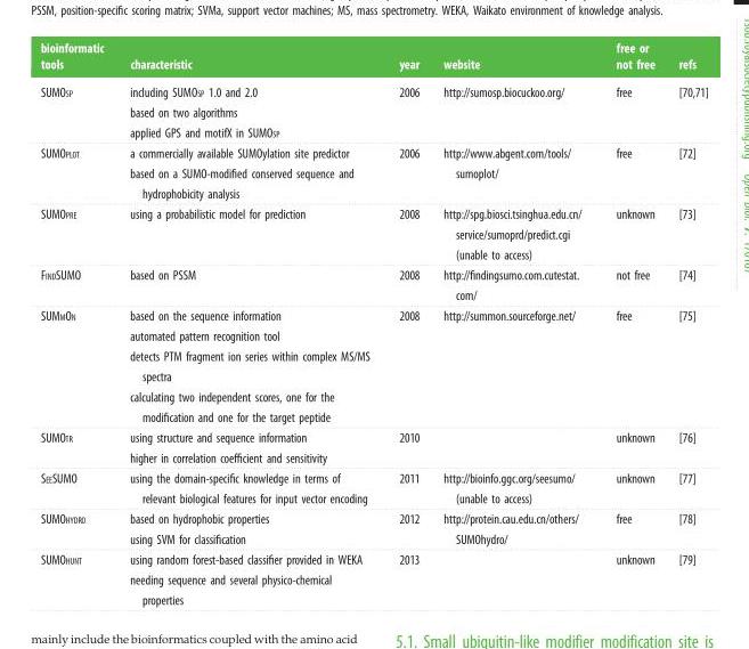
<table><thead><tr><td>bioinformatic tools</td><td>characteristic</td><td>year</td><td>website</td><td>free or not free</td><td>refs</td></tr></thead><tbody><tr><td>SUMOSP</td><td>including SUMOSP 1.0 and 2.0 based on two algorithms applied GPS and motifX in SUMOSP</td><td>2006</td><td>http://sumosp.biocuckoo.org/</td><td>free</td><td>[70,71]</td></tr><tr><td>SUMOPLOT</td><td>a commercially available SUMOylation site predictor based on a SUMO-modified conserved sequence and hydrophobicity analysis</td><td>2006</td><td>http://www.abgent.com/tools/ sumoplot/</td><td>free</td><td>[72]</td></tr><tr><td>SUMOPRE</td><td>using a probabilistic model for prediction</td><td>2008</td><td>http://spg.biosci.tsinghua.edu.cn/ service/sumoprd/predict.cgi (unable to access)</td><td>unknown</td><td>[73]</td></tr><tr><td>FINDSUMO</td><td>based on PSSM</td><td>2008</td><td>http://findingsumo.com.cutestat. com/</td><td>not free</td><td>[74]</td></tr><tr><td>SUMMON</td><td>based on the sequence information automated pattern recognition tool detects PTM fragment ion series within complex MS/MS spectra calculating two independent scores, one for the modification and one for the target peptide</td><td>2008</td><td>http://summon.sourceforge.net/</td><td>free</td><td>[75]</td></tr><tr><td>SUMOTR</td><td>using structure and sequence information higher in correlation coefficient and sensitivity</td><td>2010</td><td></td><td>unknown</td><td>[76]</td></tr><tr><td>SEESUMO</td><td>using the domain-specific knowledge in terms of relevant biological features for input vector encoding</td><td>2011</td><td>http://bioinfo.ggc.org/seesumo/ (unable to access)</td><td>unknown</td><td>[77]</td></tr><tr><td>SUMOHYDRO</td><td>based on hydrophobic properties using SVM for classification</td><td>2012</td><td>http://protein.cau.edu.cn/others/ SUMOhydro/</td><td>free</td><td>[78]</td></tr><tr><td>SUMOHUNT</td><td>using random forest-based classifier provided in WEKA needing sequence and several physico-chemical properties</td><td>2013</td><td></td><td>unknown</td><td>[79]</td></tr></tbody></table>